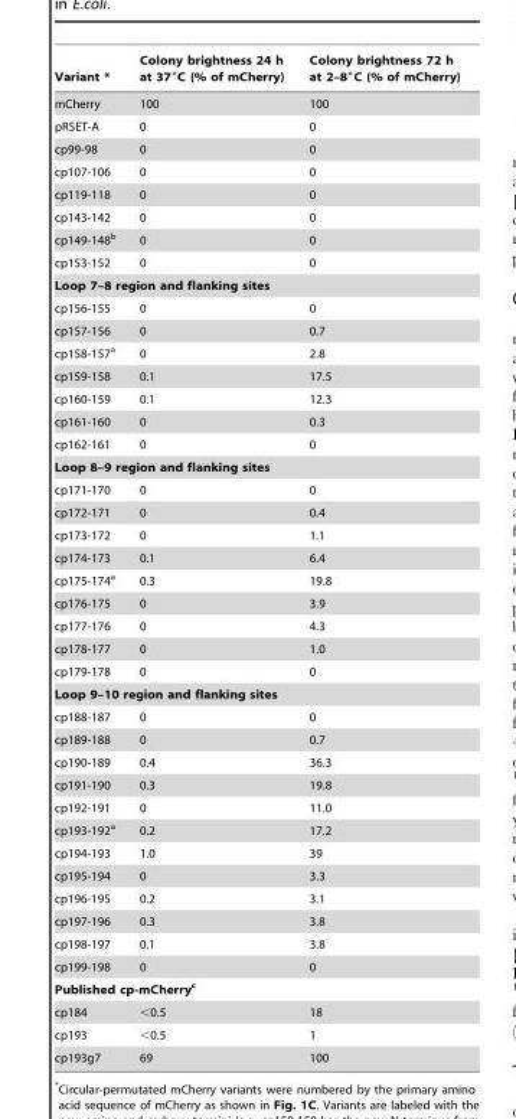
<table><thead><tr><td>Variant *</td><td>Colony brightness 24 h at 37°C (% of mCherry)</td><td>Colony brightness 72 h at 2–8°C (% of mCherry)</td></tr></thead><tbody><tr><td>mCherry</td><td>100</td><td>100</td></tr><tr><td>pRSET-A</td><td>0</td><td>0</td></tr><tr><td>cp99-98</td><td>0</td><td>0</td></tr><tr><td>cp107-106</td><td>0</td><td>0</td></tr><tr><td>cp119-118</td><td>0</td><td>0</td></tr><tr><td>cp143-142</td><td>0</td><td>0</td></tr><tr><td>cp149-148<sup>b</sup></td><td>0</td><td>0</td></tr><tr><td>cp153-152</td><td>0</td><td>0</td></tr><tr><td colspan="3">Loop 7–8 region and flanking sites</td></tr><tr><td>cp156-155</td><td>0</td><td>0</td></tr><tr><td>cp157-156</td><td>0</td><td>0.7</td></tr><tr><td>cp158-157<sup>a</sup></td><td>0</td><td>2.8</td></tr><tr><td>cp159-158</td><td>0.1</td><td>17.5</td></tr><tr><td>cp160-159</td><td>0.1</td><td>12.3</td></tr><tr><td>cp161-160</td><td>0</td><td>0.3</td></tr><tr><td>cp162-161</td><td>0</td><td>0</td></tr><tr><td colspan="3">Loop 8–9 region and flanking sites</td></tr><tr><td>cp171-170</td><td>0</td><td>0</td></tr><tr><td>cp172-171</td><td>0</td><td>0.4</td></tr><tr><td>cp173-172</td><td>0</td><td>1.1</td></tr><tr><td>cp174-173</td><td>0.1</td><td>6.4</td></tr><tr><td>cp175-174<sup>a</sup></td><td>0.3</td><td>19.8</td></tr><tr><td>cp176-175</td><td>0</td><td>3.9</td></tr><tr><td>cp177-176</td><td>0</td><td>4.3</td></tr><tr><td>cp178-177</td><td>0</td><td>1.0</td></tr><tr><td>cp179-178</td><td>0</td><td>0</td></tr><tr><td colspan="3">Loop 9–10 region and flanking sites</td></tr><tr><td>cp188-187</td><td>0</td><td>0</td></tr><tr><td>cp189-188</td><td>0</td><td>0.7</td></tr><tr><td>cp190-189</td><td>0.4</td><td>36.3</td></tr><tr><td>cp191-190</td><td>0.3</td><td>19.8</td></tr><tr><td>cp192-191</td><td>0</td><td>11.0</td></tr><tr><td>cp193-192<sup>a</sup></td><td>0.2</td><td>17.2</td></tr><tr><td>cp194-193</td><td>1.0</td><td>39</td></tr><tr><td>cp195-194</td><td>0</td><td>3.3</td></tr><tr><td>cp196-195</td><td>0.2</td><td>3.1</td></tr><tr><td>cp197-196</td><td>0.3</td><td>3.8</td></tr><tr><td>cp198-197</td><td>0.1</td><td>3.8</td></tr><tr><td>cp199-198</td><td>0</td><td>0</td></tr><tr><td colspan="3">Published cp-mCherryc</td></tr><tr><td>cp184</td><td>&lt;0.5</td><td>18</td></tr><tr><td>cp193</td><td>&lt;0.5</td><td>1</td></tr><tr><td>cp193g7</td><td>69</td><td>100</td></tr></tbody></table>